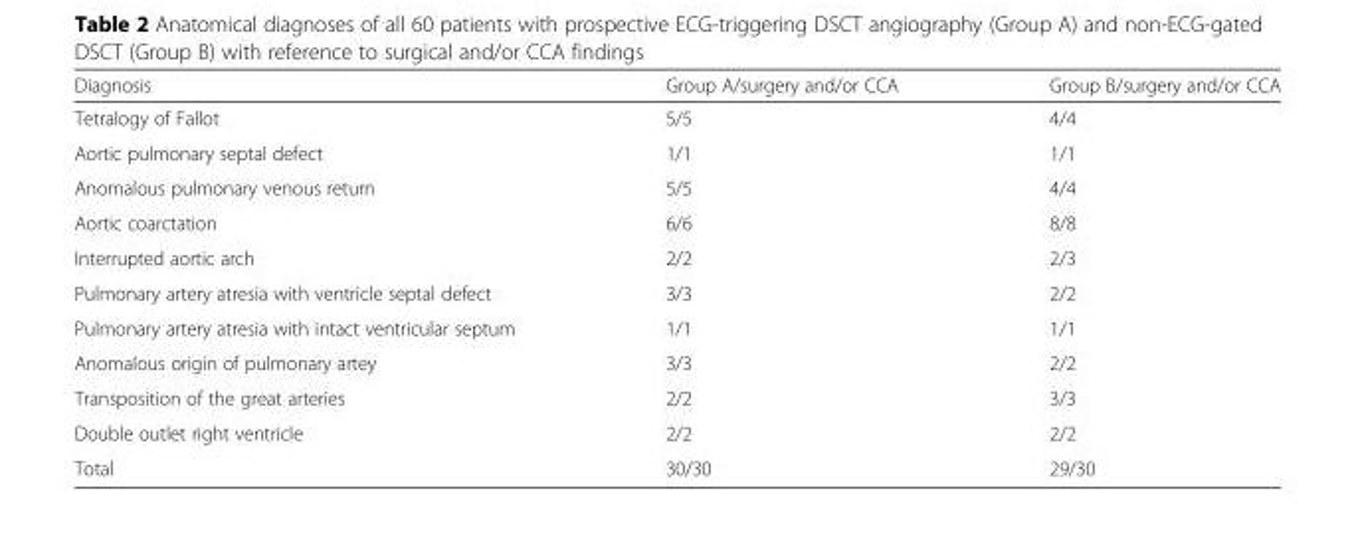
<table><thead><tr><td>Diagnosis</td><td>Group A/surgery and/or CCA</td><td>Group B/surgery and/or CCA</td></tr></thead><tbody><tr><td>Tetralogy of Fallot</td><td>5/5</td><td>4/4</td></tr><tr><td>Aortic pulmonary septal defect</td><td>1/1</td><td>1/1</td></tr><tr><td>Anomalous pulmonary venous return</td><td>5/5</td><td>4/4</td></tr><tr><td>Aortic coarctation</td><td>6/6</td><td>8/8</td></tr><tr><td>Interrupted aortic arch</td><td>2/2</td><td>2/3</td></tr><tr><td>Pulmonary artery atresia with ventricle septal defect</td><td>3/3</td><td>2/2</td></tr><tr><td>Pulmonary artery atresia with intact ventricular septum</td><td>1/1</td><td>1/1</td></tr><tr><td>Anomalous origin of pulmonary artey</td><td>3/3</td><td>2/2</td></tr><tr><td>Transposition of the great arteries</td><td>2/2</td><td>3/3</td></tr><tr><td>Double outlet right ventricle</td><td>2/2</td><td>2/2</td></tr><tr><td>Total</td><td>30/30</td><td>29/30</td></tr></tbody></table>